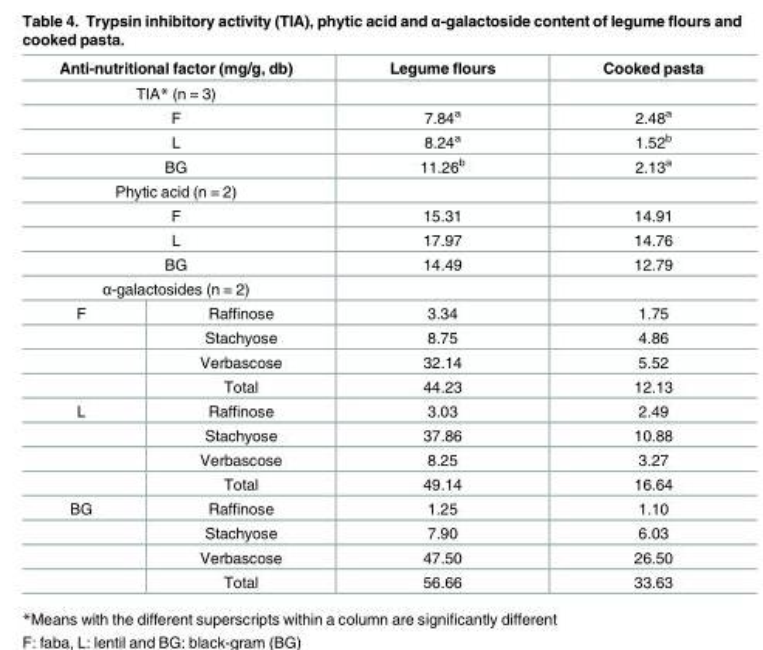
<table><thead><tr><td colspan="2">Anti-nutritional factor (mg/g, db)</td><td>Legume flours</td><td>Cooked pasta</td></tr></thead><tbody><tr><td colspan="4">TIA* (n = 3)</td></tr><tr><td colspan="2">F</td><td>7.84<sup>a</sup></td><td>2.48<sup>a</sup></td></tr><tr><td colspan="2">L</td><td>8.24<sup>a</sup></td><td>1.52<sup>b</sup></td></tr><tr><td colspan="2">BG</td><td>11.26<sup>b</sup></td><td>2.13<sup>a</sup></td></tr><tr><td colspan="4">Phytic acid (n = 2)</td></tr><tr><td colspan="2">F</td><td>15.31</td><td>14.91</td></tr><tr><td colspan="2">L</td><td>17.97</td><td>14.76</td></tr><tr><td colspan="2">BG</td><td>14.49</td><td>12.79</td></tr><tr><td colspan="4">α-galactosides (n = 2)</td></tr><tr><td rowspan="4">F</td><td>Raffinose</td><td>3.34</td><td>1.75</td></tr><tr><td>Stachyose</td><td>8.75</td><td>4.86</td></tr><tr><td>Verbascose</td><td>32.14</td><td>5.52</td></tr><tr><td>Total</td><td>44.23</td><td>12.13</td></tr><tr><td rowspan="4">L</td><td>Raffinose</td><td>3.03</td><td>2.49</td></tr><tr><td>Stachyose</td><td>37.86</td><td>10.88</td></tr><tr><td>Verbascose</td><td>8.25</td><td>3.27</td></tr><tr><td>Total</td><td>49.14</td><td>16.64</td></tr><tr><td rowspan="4">BG</td><td>Raffinose</td><td>1.25</td><td>1.10</td></tr><tr><td>Stachyose</td><td>7.90</td><td>6.03</td></tr><tr><td>Verbascose</td><td>47.50</td><td>26.50</td></tr><tr><td>Total</td><td>56.66</td><td>33.63</td></tr></tbody></table>